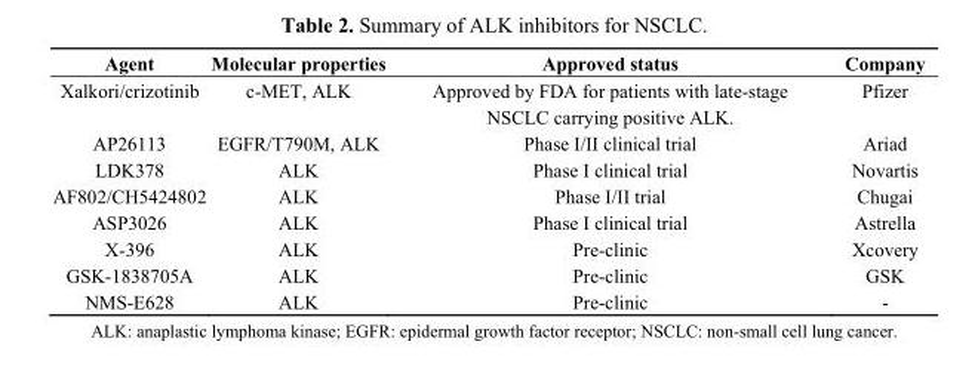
<table><thead><tr><td>Agent</td><td>Molecular properties</td><td>Approved status</td><td>Company</td></tr></thead><tbody><tr><td>Xalkori/crizotinib</td><td>c-MET, ALK</td><td>Approved by FDA for patients with late-stage NSCLC carrying positive ALK.</td><td>Pfizer</td></tr><tr><td>AP26113</td><td>EGFR/T790M, ALK</td><td>Phase I/II clinical trial</td><td>Ariad</td></tr><tr><td>LDK378</td><td>ALK</td><td>Phase I clinical trial</td><td>Novartis</td></tr><tr><td>AF802/CH5424802</td><td>ALK</td><td>Phase I/II trial</td><td>Chugai</td></tr><tr><td>ASP3026</td><td>ALK</td><td>Phase I clinical trial</td><td>Astrella</td></tr><tr><td>X-396</td><td>ALK</td><td>Pre-clinic</td><td>Xcovery</td></tr><tr><td>GSK-1838705A</td><td>ALK</td><td>Pre-clinic</td><td>GSK</td></tr><tr><td>NMS-E628</td><td>ALK</td><td>Pre-clinic</td><td>-</td></tr></tbody></table>